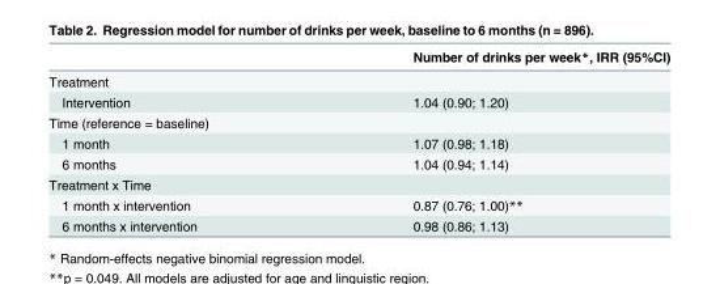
<table><thead><tr><td></td><td>Number of drinks per week*, IRR (95%CI)</td></tr></thead><tbody><tr><td colspan="2">Treatment</td></tr><tr><td>Intervention</td><td>1.04 (0.90; 1.20)</td></tr><tr><td colspan="2">Time (reference = baseline)</td></tr><tr><td>1 month</td><td>1.07 (0.98; 1.18)</td></tr><tr><td>6 months</td><td>1.04 (0.94; 1.14)</td></tr><tr><td colspan="2">Treatment x Time</td></tr><tr><td>1 month x intervention</td><td>0.87 (0.76; 1.00)**</td></tr><tr><td>6 months x intervention</td><td>0.98 (0.86; 1.13)</td></tr></tbody></table>